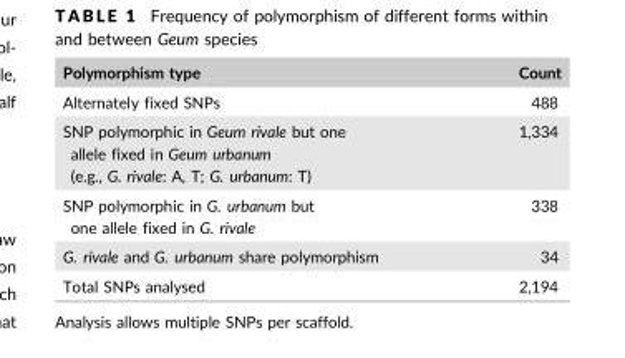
<table><thead><tr><td>Polymorphism type</td><td>Count</td></tr></thead><tbody><tr><td>Alternately fixed SNPs</td><td>488</td></tr><tr><td>SNP polymorphic in Geum rivale but one allele fixed in Geum urbanum (e.g., G. rivale: A, T; G. urbanum: T)</td><td>1,334</td></tr><tr><td>SNP polymorphic in G. urbanum but one allele fixed in G. rivale</td><td>338</td></tr><tr><td>G. rivale and G. urbanum share polymorphism</td><td>34</td></tr><tr><td>Total SNPs analysed</td><td>2,194</td></tr></tbody></table>